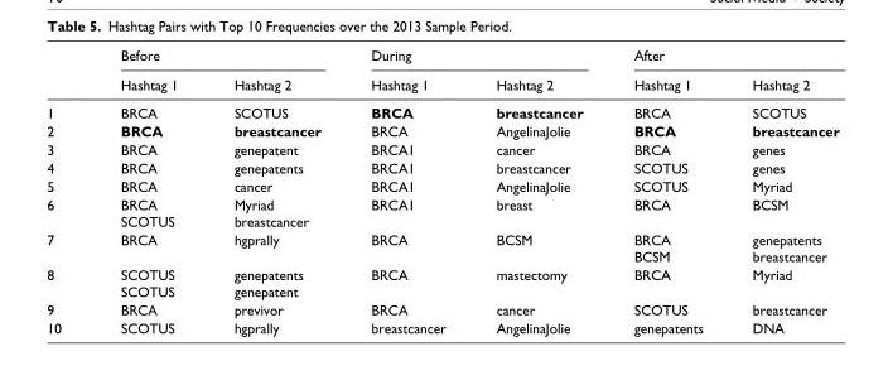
<table><thead><tr><td rowspan="2"></td><td colspan="2">Before</td><td colspan="2">During</td><td colspan="2">After</td></tr><tr><td>Hashtag 1</td><td>Hashtag 2</td><td>Hashtag 1</td><td>Hashtag 2</td><td>Hashtag 1</td><td>Hashtag 2</td></tr></thead><tbody><tr><td>1</td><td>BRCA</td><td>SCOTUS</td><td>BRCA</td><td>breastcancer</td><td>BRCA</td><td>SCOTUS</td></tr><tr><td>2</td><td>BRCA</td><td>breastcancer</td><td>BRCA</td><td>AngelinaJolie</td><td>BRCA</td><td>breastcancer</td></tr><tr><td>3</td><td>BRCA</td><td>genepatent</td><td>BRCA1</td><td>cancer</td><td>BRCA</td><td>genes</td></tr><tr><td>4</td><td>BRCA</td><td>genepatents</td><td>BRCA1</td><td>breastcancer</td><td>SCOTUS</td><td>genes</td></tr><tr><td>5</td><td>BRCA</td><td>cancer</td><td>BRCA1</td><td>AngelinaJolie</td><td>SCOTUS</td><td>Myriad</td></tr><tr><td>6</td><td>BRCA SCOTUS</td><td>Myriad breastcancer</td><td>BRCA1</td><td>breast</td><td>BRCA</td><td>BCSM</td></tr><tr><td>7</td><td>BRCA</td><td>hgprally</td><td>BRCA</td><td>BCSM</td><td>BRCA BCSM</td><td>genepatents breastcancer</td></tr><tr><td>8</td><td>SCOTUS SCOTUS</td><td>genepatents genepatent</td><td>BRCA</td><td>mastectomy</td><td>BRCA</td><td>Myriad</td></tr><tr><td>9</td><td>BRCA</td><td>previvor</td><td>BRCA</td><td>cancer</td><td>SCOTUS</td><td>breastcancer</td></tr><tr><td>10</td><td>SCOTUS</td><td>hgprally</td><td>breastcancer</td><td>AngelinaJolie</td><td>genepatents</td><td>DNA</td></tr></tbody></table>